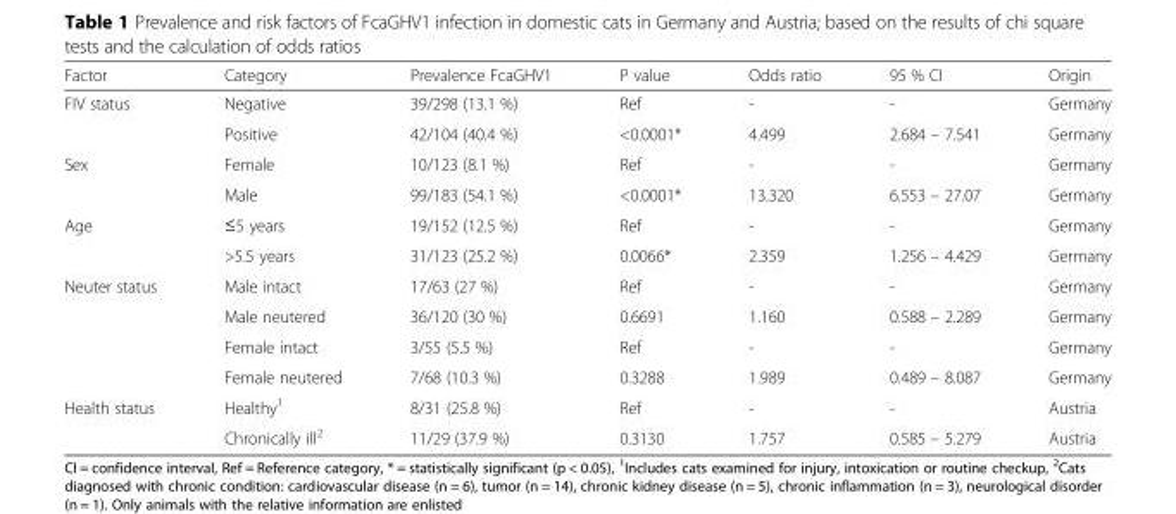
<table><thead><tr><td>Factor</td><td>Category</td><td>Prevalence FcaGHV1</td><td>P value</td><td>Odds ratio</td><td>95 % CI</td><td>Origin</td></tr></thead><tbody><tr><td rowspan="2">FIV status</td><td>Negative</td><td>39/298 (13.1 %)</td><td>Ref</td><td>-</td><td>-</td><td>Germany</td></tr><tr><td>Positive</td><td>42/104 (40.4 %)</td><td>&lt;0.0001*</td><td>4.499</td><td>2.684 – 7.541</td><td>Germany</td></tr><tr><td rowspan="2">Sex</td><td>Female</td><td>10/123 (8.1 %)</td><td>Ref</td><td>-</td><td>-</td><td>Germany</td></tr><tr><td>Male</td><td>99/183 (54.1 %)</td><td>&lt;0.0001*</td><td>13.320</td><td>6.553 – 27.07</td><td>Germany</td></tr><tr><td rowspan="2">Age</td><td>≤5 years</td><td>19/152 (12.5 %)</td><td>Ref</td><td>-</td><td>-</td><td>Germany</td></tr><tr><td>&gt;5.5 years</td><td>31/123 (25.2 %)</td><td>0.0066*</td><td>2.359</td><td>1.256 – 4.429</td><td>Germany</td></tr><tr><td rowspan="4">Neuter status</td><td>Male intact</td><td>17/63 (27 %)</td><td>Ref</td><td>-</td><td>-</td><td>Germany</td></tr><tr><td>Male neutered</td><td>36/120 (30 %)</td><td>0.6691</td><td>1.160</td><td>0.588 – 2.289</td><td>Germany</td></tr><tr><td>Female intact</td><td>3/55 (5.5 %)</td><td>Ref</td><td>-</td><td>-</td><td>Germany</td></tr><tr><td>Female neutered</td><td>7/68 (10.3 %)</td><td>0.3288</td><td>1.989</td><td>0.489 – 8.087</td><td>Germany</td></tr><tr><td rowspan="2">Health status</td><td>Healthy<sup>1</sup></td><td>8/31 (25.8 %)</td><td>Ref</td><td>-</td><td>-</td><td>Austria</td></tr><tr><td>Chronically ill<sup>2</sup></td><td>11/29 (37.9 %)</td><td>0.3130</td><td>1.757</td><td>0.585 – 5.279</td><td>Austria</td></tr></tbody></table>